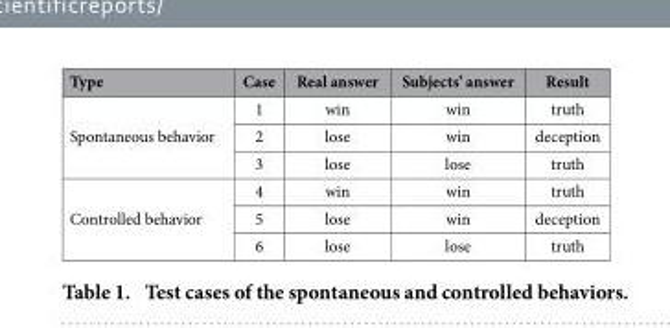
<table><thead><tr><td>Type</td><td>Case</td><td>Real answer</td><td>Subjects’ answer</td><td>Result</td></tr></thead><tbody><tr><td rowspan="3">Spontaneous behavior</td><td>1</td><td>win</td><td>win</td><td>truth</td></tr><tr><td>2</td><td>lose</td><td>win</td><td>deception</td></tr><tr><td>3</td><td>lose</td><td>lose</td><td>truth</td></tr><tr><td rowspan="3">Controlled behavior</td><td>4</td><td>win</td><td>win</td><td>truth</td></tr><tr><td>5</td><td>lose</td><td>win</td><td>deception</td></tr><tr><td>6</td><td>lose</td><td>lose</td><td>truth</td></tr></tbody></table>